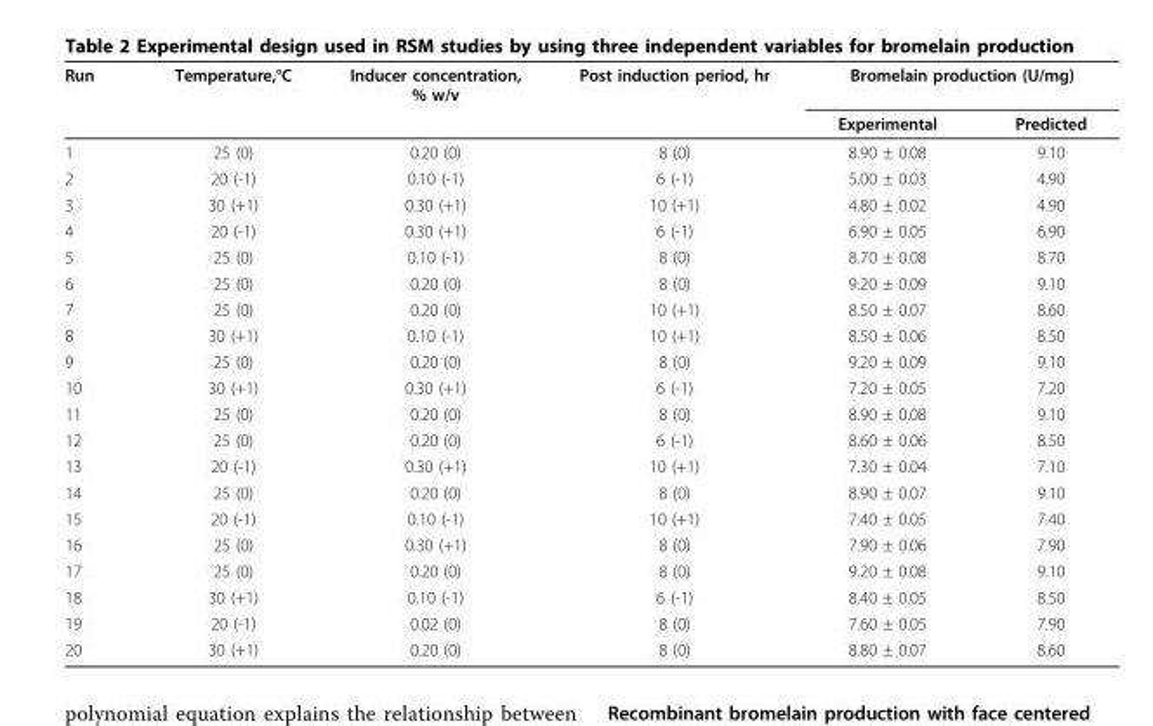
<table><thead><tr><td rowspan="2">Run</td><td rowspan="2">Temperature,°C</td><td rowspan="2">Inducer concentration, % w/v</td><td rowspan="2">Post induction period, hr</td><td colspan="2">Bromelain production (U/mg)</td></tr><tr><td>Experimental</td><td>Predicted</td></tr></thead><tbody><tr><td>1</td><td>25 (0)</td><td>0.20 (0)</td><td>8 (0)</td><td>8.90 ± 0.08</td><td>9.10</td></tr><tr><td>2</td><td>20 (-1)</td><td>0.10 (-1)</td><td>6 (-1)</td><td>5.00 ± 0.03</td><td>4.90</td></tr><tr><td>3</td><td>30 (+1)</td><td>0.30 (+1)</td><td>10 (+1)</td><td>4.80 ± 0.02</td><td>4.90</td></tr><tr><td>4</td><td>20 (-1)</td><td>0.30 (+1)</td><td>6 (-1)</td><td>6.90 ± 0.05</td><td>6.90</td></tr><tr><td>5</td><td>25 (0)</td><td>0.10 (-1)</td><td>8 (0)</td><td>8.70 ± 0.08</td><td>8.70</td></tr><tr><td>6</td><td>25 (0)</td><td>0.20 (0)</td><td>8 (0)</td><td>9.20 ± 0.09</td><td>9.10</td></tr><tr><td>7</td><td>25 (0)</td><td>0.20 (0)</td><td>10 (+1)</td><td>8.50 ± 0.07</td><td>8.60</td></tr><tr><td>8</td><td>30 (+1)</td><td>0.10 (-1)</td><td>10 (+1)</td><td>8.50 ± 0.06</td><td>8.50</td></tr><tr><td>9</td><td>25 (0)</td><td>0.20 (0)</td><td>8 (0)</td><td>9.20 ± 0.09</td><td>9.10</td></tr><tr><td>10</td><td>30 (+1)</td><td>0.30 (+1)</td><td>6 (-1)</td><td>7.20 ± 0.05</td><td>7.20</td></tr><tr><td>11</td><td>25 (0)</td><td>0.20 (0)</td><td>8 (0)</td><td>8.90 ± 0.08</td><td>9.10</td></tr><tr><td>12</td><td>25 (0)</td><td>0.20 (0)</td><td>6 (-1)</td><td>8.60 ± 0.06</td><td>8.50</td></tr><tr><td>13</td><td>20 (-1)</td><td>0.30 (+1)</td><td>10 (+1)</td><td>7.30 ± 0.04</td><td>7.10</td></tr><tr><td>14</td><td>25 (0)</td><td>0.20 (0)</td><td>8 (0)</td><td>8.90 ± 0.07</td><td>9.10</td></tr><tr><td>15</td><td>20 (-1)</td><td>0.10 (-1)</td><td>10 (+1)</td><td>7.40 ± 0.05</td><td>7.40</td></tr><tr><td>16</td><td>25 (0)</td><td>0.30 (+1)</td><td>8 (0)</td><td>7.90 ± 0.06</td><td>7.90</td></tr><tr><td>17</td><td>25 (0)</td><td>0.20 (0)</td><td>8 (0)</td><td>9.20 ± 0.08</td><td>9.10</td></tr><tr><td>18</td><td>30 (+1)</td><td>0.10 (-1)</td><td>6 (-1)</td><td>8.40 ± 0.05</td><td>8.50</td></tr><tr><td>19</td><td>20 (-1)</td><td>0.02 (0)</td><td>8 (0)</td><td>7.60 ± 0.05</td><td>7.90</td></tr><tr><td>20</td><td>30 (+1)</td><td>0.20 (0)</td><td>8 (0)</td><td>8.80 ± 0.07</td><td>8.60</td></tr></tbody></table>